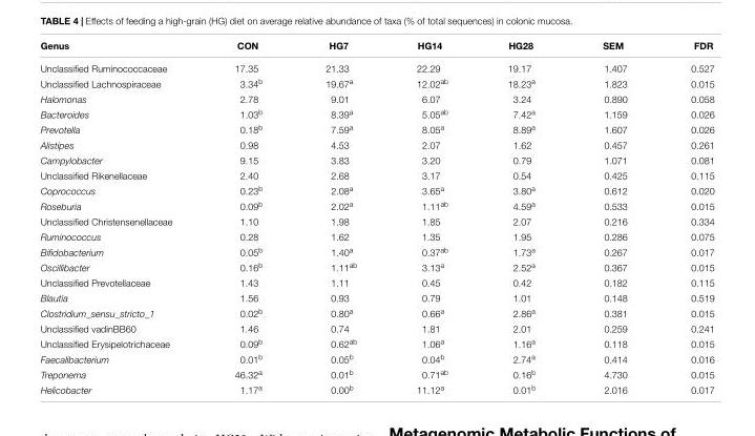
<table><thead><tr><td>Genus</td><td>CON</td><td>HG7</td><td>HG14</td><td>HG28</td><td>SEM</td><td>FDR</td></tr></thead><tbody><tr><td>Unclassified Ruminococcaceae</td><td>17.35</td><td>21.33</td><td>22.29</td><td>19.17</td><td>1.407</td><td>0.527</td></tr><tr><td>Unclassified Lachnospiraceae</td><td>3.34<sup>b</sup></td><td>19.67<sup>a</sup></td><td>12.02<sup>ab</sup></td><td>18.23<sup>a</sup></td><td>1.823</td><td>0.015</td></tr><tr><td>Halomonas</td><td>2.78</td><td>9.01</td><td>6.07</td><td>3.24</td><td>0.890</td><td>0.058</td></tr><tr><td>Bacteroides</td><td>1.03<sup>b</sup></td><td>8.39<sup>a</sup></td><td>5.05<sup>ab</sup></td><td>7.42<sup>a</sup></td><td>1.159</td><td>0.026</td></tr><tr><td>Prevotella</td><td>0.18<sup>b</sup></td><td>7.59<sup>a</sup></td><td>8.05<sup>a</sup></td><td>8.89<sup>a</sup></td><td>1.607</td><td>0.026</td></tr><tr><td>Alistipes</td><td>0.98</td><td>4.53</td><td>2.07</td><td>1.62</td><td>0.457</td><td>0.261</td></tr><tr><td>Campylobacter</td><td>9.15</td><td>3.83</td><td>3.20</td><td>0.79</td><td>1.071</td><td>0.081</td></tr><tr><td>Unclassified Rikenellaceae</td><td>2.40</td><td>2.68</td><td>3.17</td><td>0.54</td><td>0.425</td><td>0.115</td></tr><tr><td>Coprococcus</td><td>0.23<sup>b</sup></td><td>2.08<sup>a</sup></td><td>3.65<sup>a</sup></td><td>3.80<sup>a</sup></td><td>0.612</td><td>0.020</td></tr><tr><td>Roseburia</td><td>0.09<sup>b</sup></td><td>2.02<sup>a</sup></td><td>1.11<sup>ab</sup></td><td>4.59<sup>a</sup></td><td>0.533</td><td>0.015</td></tr><tr><td>Unclassified Christensenellaceae</td><td>1.10</td><td>1.98</td><td>1.85</td><td>2.07</td><td>0.216</td><td>0.334</td></tr><tr><td>Ruminococcus</td><td>0.28</td><td>1.62</td><td>1.35</td><td>1.95</td><td>0.286</td><td>0.075</td></tr><tr><td>Bifidobacterium</td><td>0.05<sup>b</sup></td><td>1.40<sup>a</sup></td><td>0.37<sup>ab</sup></td><td>1.73<sup>a</sup></td><td>0.267</td><td>0.017</td></tr><tr><td>Oscillibacter</td><td>0.16<sup>b</sup></td><td>1.11<sup>ab</sup></td><td>3.13<sup>a</sup></td><td>2.52<sup>a</sup></td><td>0.367</td><td>0.015</td></tr><tr><td>Unclassified Prevotellaceae</td><td>1.43</td><td>1.11</td><td>0.45</td><td>0.42</td><td>0.182</td><td>0.115</td></tr><tr><td>Blautia</td><td>1.56</td><td>0.93</td><td>0.79</td><td>1.01</td><td>0.148</td><td>0.519</td></tr><tr><td>Clostridium_sensu_stricto_1</td><td>0.02<sup>b</sup></td><td>0.80<sup>a</sup></td><td>0.66<sup>a</sup></td><td>2.86<sup>a</sup></td><td>0.381</td><td>0.015</td></tr><tr><td>Unclassified vadinBB60</td><td>1.46</td><td>0.74</td><td>1.81</td><td>2.01</td><td>0.259</td><td>0.241</td></tr><tr><td>Unclassified Erysipelotrichaceae</td><td>0.09<sup>b</sup></td><td>0.62<sup>ab</sup></td><td>1.06<sup>a</sup></td><td>1.16<sup>a</sup></td><td>0.118</td><td>0.015</td></tr><tr><td>Faecalibacterium</td><td>0.01<sup>b</sup></td><td>0.05<sup>b</sup></td><td>0.04<sup>b</sup></td><td>2.74<sup>a</sup></td><td>0.414</td><td>0.016</td></tr><tr><td>Treponema</td><td>46.32<sup>a</sup></td><td>0.01<sup>b</sup></td><td>0.71<sup>ab</sup></td><td>0.16<sup>b</sup></td><td>4.730</td><td>0.015</td></tr><tr><td>Helicobacter</td><td>1.17<sup>a</sup></td><td>0.00<sup>b</sup></td><td>11.12<sup>a</sup></td><td>0.01<sup>b</sup></td><td>2.016</td><td>0.017</td></tr></tbody></table>